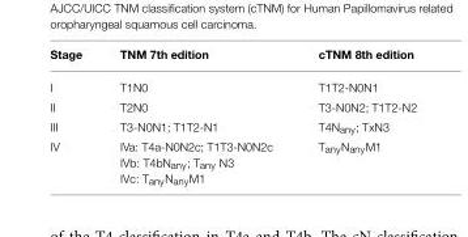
<table><thead><tr><td>Stage</td><td>TNM 7th edition</td><td>cTNM 8th edition</td></tr></thead><tbody><tr><td>I</td><td>T1N0</td><td>T1T2-N0N1</td></tr><tr><td>II</td><td>T2N0</td><td>T3-N0N2; T1T2-N2</td></tr><tr><td>III</td><td>T3-N0N1; T1T2-N1</td><td>T4N<sub>any</sub>; TxN3</td></tr><tr><td>IV</td><td>IVa: T4a-N0N2c; T1T3-N0N2c IVb: T4bN<sub>any</sub>; T<sub>any</sub> N3 IVc: T<sub>any</sub>N<sub>any</sub>M1</td><td>T<sub>any</sub>N<sub>any</sub>M1</td></tr></tbody></table>